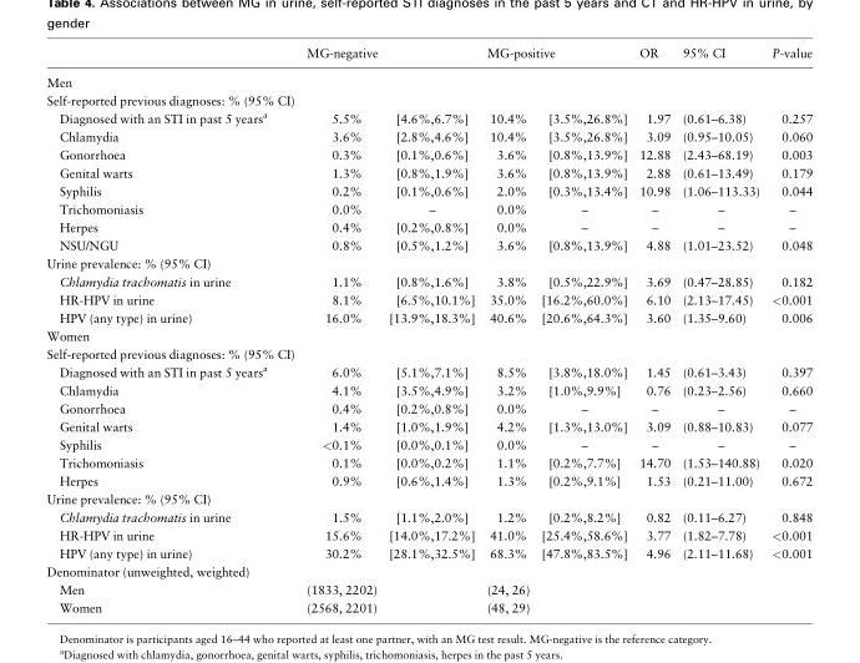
<table><thead><tr><td rowspan="2">Men</td><td colspan="2">MG-negative</td><td colspan="2">MG-positive</td><td rowspan="2">OR</td><td rowspan="2">95% CI</td><td rowspan="2">P-value</td></tr><tr><td></td><td></td><td></td><td></td></tr></thead><tbody><tr><td colspan="8">Self-reported previous diagnoses: % (95% CI)</td></tr><tr><td>Diagnosed with an STI in past 5 years<sup>a</sup></td><td>5.5%</td><td>[4.6%,6.7%]</td><td>10.4%</td><td>[3.5%,26.8%]</td><td>1.97</td><td>(0.61–6.38)</td><td>0.257</td></tr><tr><td>Chlamydia</td><td>3.6%</td><td>[2.8%,4.6%]</td><td>10.4%</td><td>[3.5%,26.8%]</td><td>3.09</td><td>(0.95–10.05)</td><td>0.060</td></tr><tr><td>Gonorrhoea</td><td>0.3%</td><td>[0.1%,0.6%]</td><td>3.6%</td><td>[0.8%,13.9%]</td><td>12.88</td><td>(2.43–68.19)</td><td>0.003</td></tr><tr><td>Genital warts</td><td>1.3%</td><td>[0.8%,1.9%]</td><td>3.6%</td><td>[0.8%,13.9%]</td><td>2.88</td><td>(0.61–13.49)</td><td>0.179</td></tr><tr><td>Syphilis</td><td>0.2%</td><td>[0.1%,0.6%]</td><td>2.0%</td><td>[0.3%,13.4%]</td><td>10.98</td><td>(1.06–113.33)</td><td>0.044</td></tr><tr><td>Trichomoniasis</td><td>0.0%</td><td>–</td><td>0.0%</td><td>–</td><td>–</td><td>–</td><td>–</td></tr><tr><td>Herpes</td><td>0.4%</td><td>[0.2%,0.8%]</td><td>0.0%</td><td>–</td><td>–</td><td>–</td><td>–</td></tr><tr><td>NSU/NGU</td><td>0.8%</td><td>[0.5%,1.2%]</td><td>3.6%</td><td>[0.8%,13.9%]</td><td>4.88</td><td>(1.01–23.52)</td><td>0.048</td></tr><tr><td colspan="8">Urine prevalence: % (95% CI)</td></tr><tr><td>Chlamydia trachomatis in urine</td><td>1.1%</td><td>[0.8%,1.6%]</td><td>3.8%</td><td>[0.5%,22.9%]</td><td>3.69</td><td>(0.47–28.85)</td><td>0.182</td></tr><tr><td>HR-HPV in urine</td><td>8.1%</td><td>[6.5%,10.1%]</td><td>35.0%</td><td>[16.2%,60.0%]</td><td>6.10</td><td>(2.13–17.45)</td><td>&lt;0.001</td></tr><tr><td>HPV (any type) in urine)</td><td>16.0%</td><td>[13.9%,18.3%]</td><td>40.6%</td><td>[20.6%,64.3%]</td><td>3.60</td><td>(1.35–9.60)</td><td>0.006</td></tr><tr><td colspan="8">Women</td></tr><tr><td colspan="8">Self-reported previous diagnoses: % (95% CI)</td></tr><tr><td>Diagnosed with an STI in past 5 years<sup>a</sup></td><td>6.0%</td><td>[5.1%,7.1%]</td><td>8.5%</td><td>[3.8%,18.0%]</td><td>1.45</td><td>(0.61–3.43)</td><td>0.397</td></tr><tr><td>Chlamydia</td><td>4.1%</td><td>[3.5%,4.9%]</td><td>3.2%</td><td>[1.0%,9.9%]</td><td>0.76</td><td>(0.23–2.56)</td><td>0.660</td></tr><tr><td>Gonorrhoea</td><td>0.4%</td><td>[0.2%,0.8%]</td><td>0.0%</td><td>–</td><td>–</td><td>–</td><td>–</td></tr><tr><td>Genital warts</td><td>1.4%</td><td>[1.0%,1.9%]</td><td>4.2%</td><td>[1.3%,13.0%]</td><td>3.09</td><td>(0.88–10.83)</td><td>0.077</td></tr><tr><td>Syphilis</td><td>&lt;0.1%</td><td>[0.0%,0.1%]</td><td>0.0%</td><td>–</td><td>–</td><td>–</td><td>–</td></tr><tr><td>Trichomoniasis</td><td>0.1%</td><td>[0.0%,0.2%]</td><td>1.1%</td><td>[0.2%,7.7%]</td><td>14.70</td><td>(1.53–140.88)</td><td>0.020</td></tr><tr><td>Herpes</td><td>0.9%</td><td>[0.6%,1.4%]</td><td>1.3%</td><td>[0.2%,9.1%]</td><td>1.53</td><td>(0.21–11.00)</td><td>0.672</td></tr><tr><td colspan="8">Urine prevalence: % (95% CI)</td></tr><tr><td>Chlamydia trachomatis in urine</td><td>1.5%</td><td>[1.1%,2.0%]</td><td>1.2%</td><td>[0.2%,8.2%]</td><td>0.82</td><td>(0.11–6.27)</td><td>0.848</td></tr><tr><td>HR-HPV in urine</td><td>15.6%</td><td>[14.0%,17.2%]</td><td>41.0%</td><td>[25.4%,58.6%]</td><td>3.77</td><td>(1.82–7.78)</td><td>&lt;0.001</td></tr><tr><td>HPV (any type) in urine)</td><td>30.2%</td><td>[28.1%,32.5%]</td><td>68.3%</td><td>[47.8%,83.5%]</td><td>4.96</td><td>(2.11–11.68)</td><td>&lt;0.001</td></tr><tr><td colspan="8">Denominator (unweighted, weighted)</td></tr><tr><td>Men</td><td>(1833, 2202)</td><td></td><td>(24, 26)</td><td></td><td></td><td></td><td></td></tr><tr><td>Women</td><td>(2568, 2201)</td><td></td><td>(48, 29)</td><td></td><td></td><td></td><td></td></tr></tbody></table>